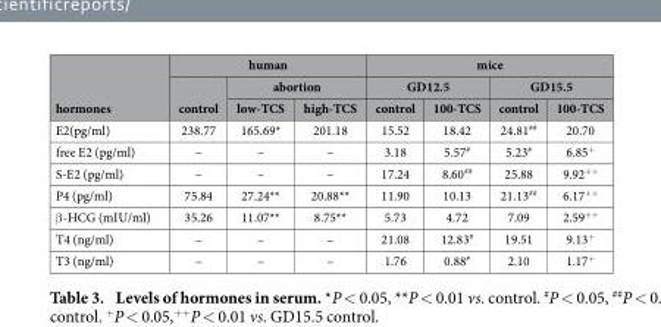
<table><thead><tr><td rowspan="3">hormones</td><td colspan="3">human</td><td colspan="4">mice</td></tr><tr><td rowspan="2">control</td><td colspan="2">abortion</td><td colspan="2">GD12.5</td><td colspan="2">GD15.5</td></tr><tr><td>low-TCS</td><td>high-TCS</td><td>control</td><td>100-TCS</td><td>control</td><td>100-TCS</td></tr></thead><tbody><tr><td>E2(pg/ml)</td><td>238.77</td><td>165.69*</td><td>201.18</td><td>15.52</td><td>18.42</td><td>24.81##</td><td>20.70</td></tr><tr><td>free E2 (pg/ml)</td><td>–</td><td>–</td><td>–</td><td>3.18</td><td>5.57#</td><td>5.23#</td><td>6.85+</td></tr><tr><td>S-E2 (pg/ml)</td><td>–</td><td>–</td><td>–</td><td>17.24</td><td>8.60##</td><td>25.88</td><td>9.92++</td></tr><tr><td>P4 (pg/ml)</td><td>75.84</td><td>27.24**</td><td>20.88**</td><td>11.90</td><td>10.13</td><td>21.13##</td><td>6.17++</td></tr><tr><td>β -HCG (mIU/ml)</td><td>35.26</td><td>11.07**</td><td>8.75**</td><td>5.73</td><td>4.72</td><td>7.09</td><td>2.59++</td></tr><tr><td>T4 (ng/ml)</td><td>–</td><td>–</td><td>–</td><td>21.08</td><td>12.83#</td><td>19.51</td><td>9.13<sup>+</sup></td></tr><tr><td>T3 (ng/ml)</td><td>–</td><td>–</td><td>–</td><td>1.76</td><td>0.88#</td><td>2.10</td><td>1.17+</td></tr></tbody></table>